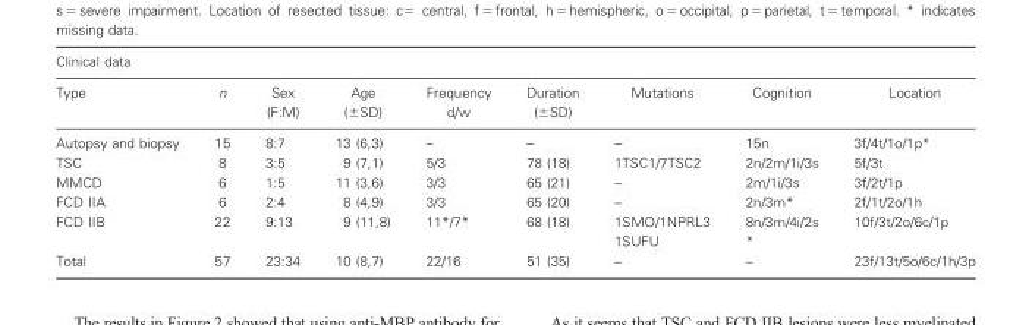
<table><thead><tr><td colspan="9">Clinical data</td></tr><tr><td>Type</td><td>n</td><td>Sex (F:M)</td><td>Age (±SD)</td><td>Frequency d/w</td><td>Duration (±SD)</td><td>Mutations</td><td>Cognition</td><td>Location</td></tr></thead><tbody><tr><td>Autopsy and biopsy</td><td>15</td><td>8:7</td><td>13 (6,3)</td><td>–</td><td>–</td><td>–</td><td>15n</td><td>3f/4t/1o/1p*</td></tr><tr><td>TSC</td><td>8</td><td>3:5</td><td>9 (7,1)</td><td>5/3</td><td>78 (18)</td><td>1TSC1/7TSC2</td><td>2n/2m/1i/3s</td><td>5f/3t</td></tr><tr><td>MMCD</td><td>6</td><td>1:5</td><td>11 (3,6)</td><td>3/3</td><td>65 (21)</td><td>–</td><td>2m/1i/3s</td><td>3f/2t/1p</td></tr><tr><td>FCD IIA</td><td>6</td><td>2:4</td><td>8 (4,9)</td><td>3/3</td><td>65 (20)</td><td>–</td><td>2n/3m*</td><td>2f/1t/2o/1h</td></tr><tr><td>FCD IIB</td><td>22</td><td>9:13</td><td>9 (11,8)</td><td>11*/7*</td><td>68 (18)</td><td>1SMO/1NPRL3 1SUFU</td><td>8n/3m/4i/2s *</td><td>10f/3t/2o/6c/1p</td></tr><tr><td>Total</td><td>57</td><td>23:34</td><td>10 (8,7)</td><td>22/16</td><td>51 (35)</td><td>–</td><td>–</td><td>23f/13t/5o/6c/1h/3p</td></tr></tbody></table>